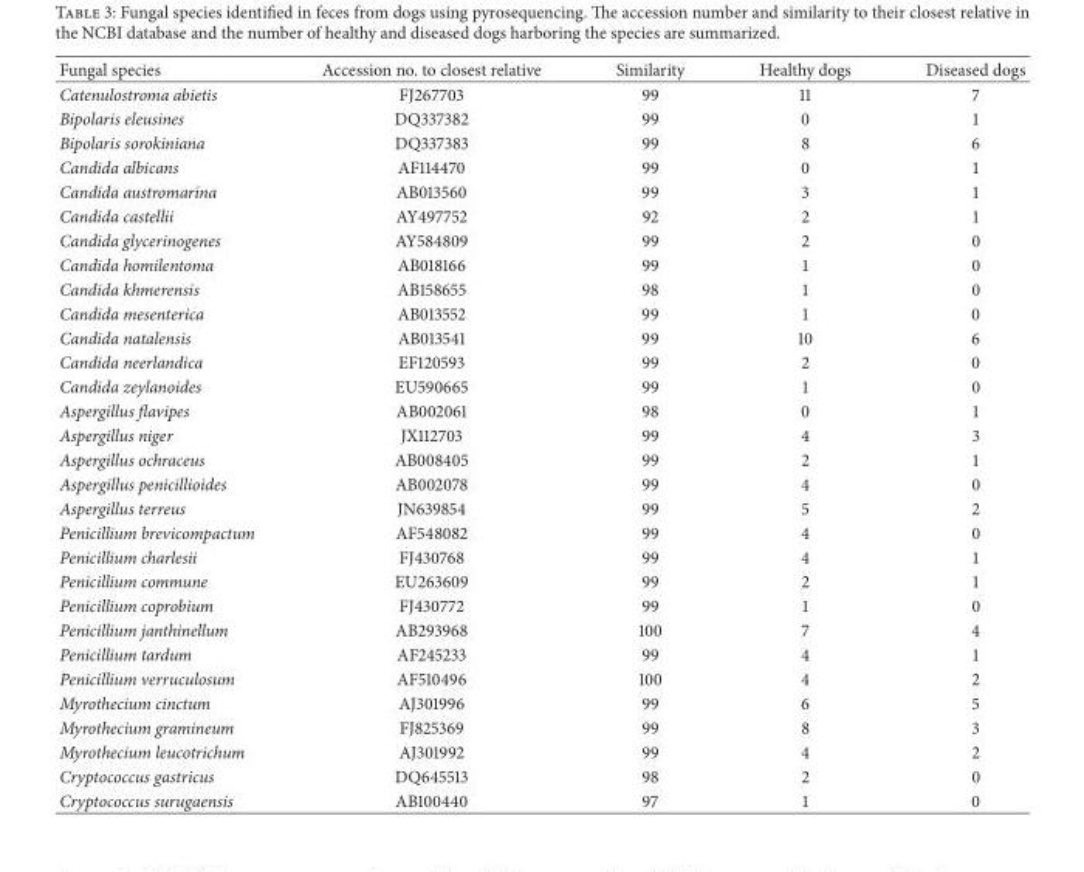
<table><thead><tr><td>Fungal species</td><td>Accession no. to closest relative</td><td>Similarity</td><td>Healthy dogs</td><td>Diseased dogs</td></tr></thead><tbody><tr><td>Catenulostroma abietis</td><td>FJ267703</td><td>99</td><td>11</td><td>7</td></tr><tr><td>Bipolaris eleusines</td><td>DQ337382</td><td>99</td><td>0</td><td>1</td></tr><tr><td>Bipolaris sorokiniana</td><td>DQ337383</td><td>99</td><td>8</td><td>6</td></tr><tr><td>Candida albicans</td><td>AF114470</td><td>99</td><td>0</td><td>1</td></tr><tr><td>Candida austromarina</td><td>AB013560</td><td>99</td><td>3</td><td>1</td></tr><tr><td>Candida castellii</td><td>AY497752</td><td>92</td><td>2</td><td>1</td></tr><tr><td>Candida glycerinogenes</td><td>AY584809</td><td>99</td><td>2</td><td>0</td></tr><tr><td>Candida homilentoma</td><td>AB018166</td><td>99</td><td>1</td><td>0</td></tr><tr><td>Candida khmerensis</td><td>AB158655</td><td>98</td><td>1</td><td>0</td></tr><tr><td>Candida mesenterica</td><td>AB013552</td><td>99</td><td>1</td><td>0</td></tr><tr><td>Candida natalensis</td><td>AB013541</td><td>99</td><td>10</td><td>6</td></tr><tr><td>Candida neerlandica</td><td>EF120593</td><td>99</td><td>2</td><td>0</td></tr><tr><td>Candida zeylanoides</td><td>EU590665</td><td>99</td><td>1</td><td>0</td></tr><tr><td>Aspergillus flavipes</td><td>AB002061</td><td>98</td><td>0</td><td>1</td></tr><tr><td>Aspergillus niger</td><td>JX112703</td><td>99</td><td>4</td><td>3</td></tr><tr><td>Aspergillus ochraceus</td><td>AB008405</td><td>99</td><td>2</td><td>1</td></tr><tr><td>Aspergillus penicillioides</td><td>AB002078</td><td>99</td><td>4</td><td>0</td></tr><tr><td>Aspergillus terreus</td><td>JN639854</td><td>99</td><td>5</td><td>2</td></tr><tr><td>Penicillium brevicompactum</td><td>AF548082</td><td>99</td><td>4</td><td>0</td></tr><tr><td>Penicillium charlesii</td><td>FJ430768</td><td>99</td><td>4</td><td>1</td></tr><tr><td>Penicillium commune</td><td>EU263609</td><td>99</td><td>2</td><td>1</td></tr><tr><td>Penicillium coprobium</td><td>FJ430772</td><td>99</td><td>1</td><td>0</td></tr><tr><td>Penicillium janthinellum</td><td>AB293968</td><td>100</td><td>7</td><td>4</td></tr><tr><td>Penicillium tardum</td><td>AF245233</td><td>99</td><td>4</td><td>1</td></tr><tr><td>Penicillium verruculosum</td><td>AF510496</td><td>100</td><td>4</td><td>2</td></tr><tr><td>Myrothecium cinctum</td><td>AJ301996</td><td>99</td><td>6</td><td>5</td></tr><tr><td>Myrothecium gramineum</td><td>FJ825369</td><td>99</td><td>8</td><td>3</td></tr><tr><td>Myrothecium leucotrichum</td><td>AJ301992</td><td>99</td><td>4</td><td>2</td></tr><tr><td>Cryptococcus gastricus</td><td>DQ645513</td><td>98</td><td>2</td><td>0</td></tr><tr><td>Cryptococcus surugaensis</td><td>AB100440</td><td>97</td><td>1</td><td>0</td></tr></tbody></table>